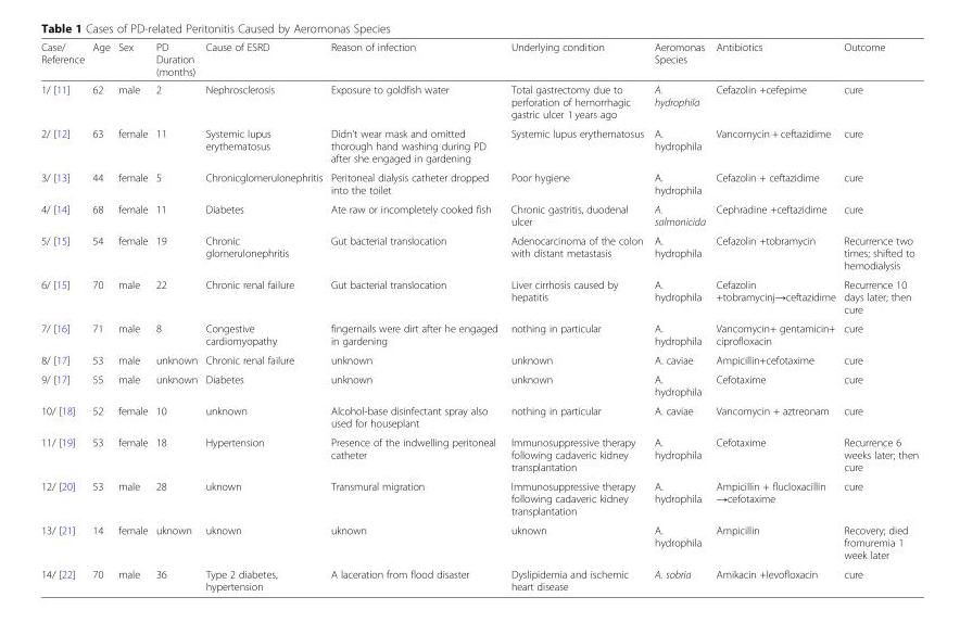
<table><thead><tr><td>Case/ Reference</td><td>Age</td><td>Sex</td><td>PD Duration (months)</td><td>Cause of ESRD</td><td>Reason of infection</td><td>Underlying condition</td><td>Aeromonas Species</td><td>Antibiotics</td><td>Outcome</td></tr></thead><tbody><tr><td>1/ [11]</td><td>62</td><td>male</td><td>2</td><td>Nephrosclerosis</td><td>Exposure to goldfish water</td><td>Total gastrectomy due to perforation of hemorrhagic gastric ulcer 1 years ago</td><td>A. hydrophila</td><td>Cefazolin +cefepime</td><td>cure</td></tr><tr><td>2/ [12]</td><td>63</td><td>female</td><td>11</td><td>Systemic lupus erythematosus</td><td>Didn’t wear mask and omitted thorough hand washing during PD after she engaged in gardening</td><td>Systemic lupus erythematosus</td><td>A. hydrophila</td><td>Vancomycin + ceftazidime</td><td>cure</td></tr><tr><td>3/ [13]</td><td>44</td><td>female</td><td>5</td><td>Chronicglomerulonephritis</td><td>Peritoneal dialysis catheter dropped into the toilet</td><td>Poor hygiene</td><td>A. hydrophila</td><td>Cefazolin + ceftazidime</td><td>cure</td></tr><tr><td>4/ [14]</td><td>68</td><td>female</td><td>11</td><td>Diabetes</td><td>Ate raw or incompletely cooked fish</td><td>Chronic gastritis, duodenal ulcer</td><td>A. salmonicida</td><td>Cephradine +ceftazidime</td><td>cure</td></tr><tr><td>5/ [15]</td><td>54</td><td>female</td><td>19</td><td>Chronic glomerulonephritis</td><td>Gut bacterial translocation</td><td>Adenocarcinoma of the colon with distant metastasis</td><td>A. hydrophila</td><td>Cefazolin +tobramycin</td><td>Recurrence two times; shifted to hemodialysis</td></tr><tr><td>6/ [15]</td><td>70</td><td>male</td><td>22</td><td>Chronic renal failure</td><td>Gut bacterial translocation</td><td>Liver cirrhosis caused by hepatitis</td><td>A. hydrophila</td><td>Cefazolin +tobramycinj→ceftazidime</td><td>Recurrence 10 days later; then cure</td></tr><tr><td>7/ [16]</td><td>71</td><td>male</td><td>8</td><td>Congestive cardiomyopathy</td><td>fingernails were dirt after he engaged in gardening</td><td>nothing in particular</td><td>A. hydrophila</td><td>Vancomycin+ gentamicin+ ciprofloxacin</td><td>cure</td></tr><tr><td>8/ [17]</td><td>53</td><td>male</td><td>unknown</td><td>Chronic renal failure</td><td>unknown</td><td>unknown</td><td>A. caviae</td><td>Ampicillin+cefotaxime</td><td>cure</td></tr><tr><td>9/ [17]</td><td>55</td><td>male</td><td>unknown</td><td>Diabetes</td><td>unknown</td><td>unknown</td><td>A. hydrophila</td><td>Cefotaxime</td><td>cure</td></tr><tr><td>10/ [18]</td><td>52</td><td>female</td><td>10</td><td>unknown</td><td>Alcohol-base disinfectant spray also used for houseplant</td><td>nothing in particular</td><td>A. caviae</td><td>Vancomycin + aztreonam</td><td>cure</td></tr><tr><td>11/ [19]</td><td>53</td><td>female</td><td>18</td><td>Hypertension</td><td>Presence of the indwelling peritoneal catheter</td><td>Immunosuppressive therapy following cadaveric kidney transplantation</td><td>A. hydrophila</td><td>Cefotaxime</td><td>Recurrence 6 weeks later; then cure</td></tr><tr><td>12/ [20]</td><td>53</td><td>male</td><td>28</td><td>uknown</td><td>Transmural migration</td><td>Immunosuppressive therapy following cadaveric kidney transplantation</td><td>A. hydrophila</td><td>Ampicillin + flucloxacillin →cefotaxime</td><td>cure</td></tr><tr><td>13/ [21]</td><td>14</td><td>female</td><td>uknown</td><td>uknown</td><td>uknown</td><td>uknown</td><td>A. hydrophila</td><td>Ampicillin</td><td>Recovery; died fromuremia 1 week later</td></tr><tr><td>14/ [22]</td><td>70</td><td>male</td><td>36</td><td>Type 2 diabetes, hypertension</td><td>A laceration from flood disaster</td><td>Dyslipidemia and ischemic heart disease</td><td>A. sobria</td><td>Amikacin +levofloxacin</td><td>cure</td></tr></tbody></table>